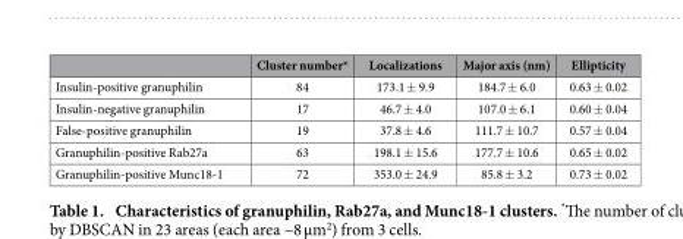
<table><thead><tr><td></td><td>Cluster number*</td><td>Localizations</td><td>Major axis (nm)</td><td>Ellipticity</td></tr></thead><tbody><tr><td>Insulin-positive granuphilin</td><td>84</td><td>173.1 ± 9.9</td><td>184.7 ± 6.0</td><td>0.63 ± 0.02</td></tr><tr><td>Insulin-negative granuphilin</td><td>17</td><td>46.7 ± 4.0</td><td>107.0 ± 6.1</td><td>0.60 ± 0.04</td></tr><tr><td>False-positive granuphilin</td><td>19</td><td>37.8 ± 4.6</td><td>111.7 ± 10.7</td><td>0.57 ± 0.04</td></tr><tr><td>Granuphilin-positive Rab27a</td><td>63</td><td>198.1 ± 15.6</td><td>177.7 ± 10.6</td><td>0.65 ± 0.02</td></tr><tr><td>Granuphilin-positive Munc18-1</td><td>72</td><td>353.0 ± 24.9</td><td>85.8 ± 3.2</td><td>0.73 ± 0.02</td></tr></tbody></table>